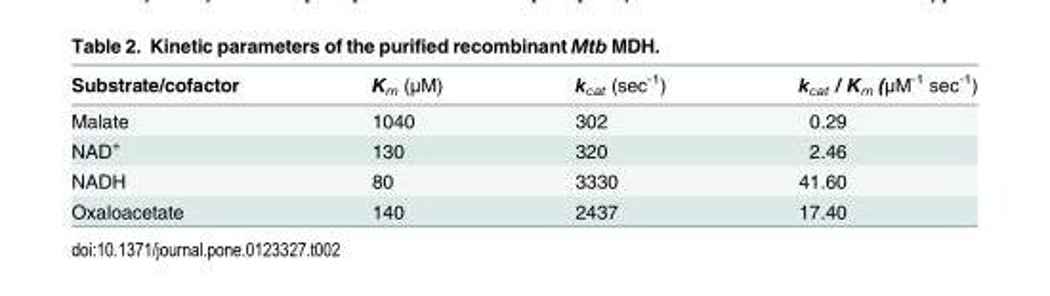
<table><thead><tr><td>Substrate/cofactor</td><td>K<sub>m</sub> (μM)</td><td>k<sub>cat</sub> (sec<sup>-1</sup>)</td><td>k<sub>cat</sub> / K<sub>m</sub> (μM<sup>-1</sup> sec<sup>-1</sup>)</td></tr></thead><tbody><tr><td>Malate</td><td>1040</td><td>302</td><td>0.29</td></tr><tr><td>NAD<sup>+</sup></td><td>130</td><td>320</td><td>2.46</td></tr><tr><td>NADH</td><td>80</td><td>3330</td><td>41.60</td></tr><tr><td>Oxaloacetate</td><td>140</td><td>2437</td><td>17.40</td></tr></tbody></table>